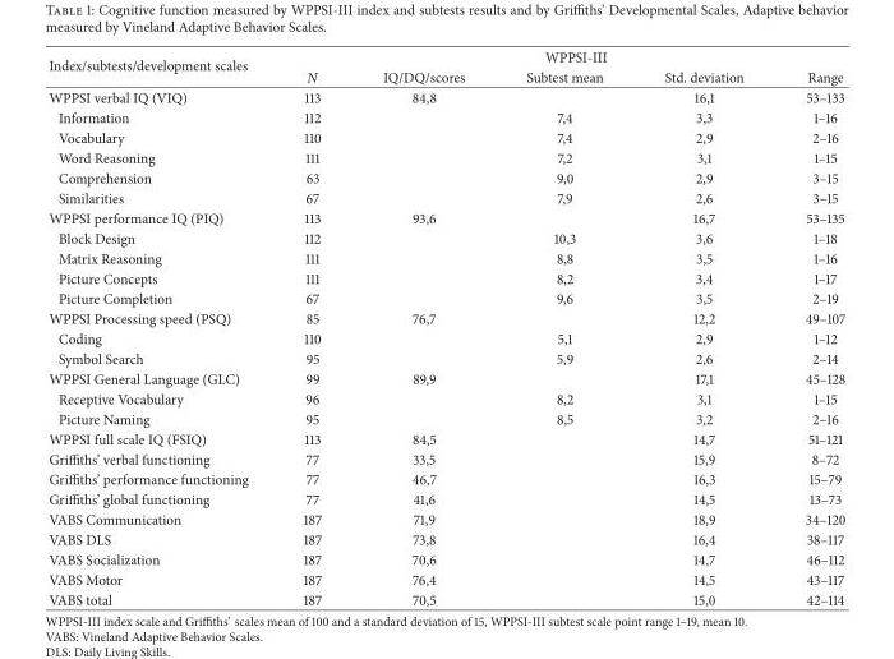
<table><thead><tr><td rowspan="2">Index/subtests/development scales</td><td colspan="5">WPPSI-III</td></tr><tr><td>N</td><td>IQ/DQ/scores</td><td>Subtest mean</td><td>Std. deviation</td><td>Range</td></tr></thead><tbody><tr><td>WPPSI verbal IQ (VIQ)</td><td>113</td><td>84,8</td><td></td><td>16,1</td><td>53–133</td></tr><tr><td>Information</td><td>112</td><td></td><td>7,4</td><td>3,3</td><td>1–16</td></tr><tr><td>Vocabulary</td><td>110</td><td></td><td>7,4</td><td>2,9</td><td>2–16</td></tr><tr><td>Word Reasoning</td><td>111</td><td></td><td>7,2</td><td>3,1</td><td>1–15</td></tr><tr><td>Comprehension</td><td>63</td><td></td><td>9,0</td><td>2,9</td><td>3–15</td></tr><tr><td>Similarities</td><td>67</td><td></td><td>7,9</td><td>2,6</td><td>3–15</td></tr><tr><td>WPPSI performance IQ (PIQ)</td><td>113</td><td>93,6</td><td></td><td>16,7</td><td>53–135</td></tr><tr><td>Block Design</td><td>112</td><td></td><td>10,3</td><td>3,6</td><td>1–18</td></tr><tr><td>Matrix Reasoning</td><td>111</td><td></td><td>8,8</td><td>3,5</td><td>1–16</td></tr><tr><td>Picture Concepts</td><td>111</td><td></td><td>8,2</td><td>3,4</td><td>1–17</td></tr><tr><td>Picture Completion</td><td>67</td><td></td><td>9,6</td><td>3,5</td><td>2–19</td></tr><tr><td>WPPSI Processing speed (PSQ)</td><td>85</td><td>76,7</td><td></td><td>12,2</td><td>49–107</td></tr><tr><td>Coding</td><td>110</td><td></td><td>5,1</td><td>2,9</td><td>1–12</td></tr><tr><td>Symbol Search</td><td>95</td><td></td><td>5,9</td><td>2,6</td><td>2–14</td></tr><tr><td>WPPSI General Language (GLC)</td><td>99</td><td>89,9</td><td></td><td>17,1</td><td>45–128</td></tr><tr><td>Receptive Vocabulary</td><td>96</td><td></td><td>8,2</td><td>3,1</td><td>1–15</td></tr><tr><td>Picture Naming</td><td>95</td><td></td><td>8,5</td><td>3,2</td><td>2–16</td></tr><tr><td>WPPSI full scale IQ (FSIQ)</td><td>113</td><td>84,5</td><td></td><td>14,7</td><td>51–121</td></tr><tr><td>Griffiths’ verbal functioning</td><td>77</td><td>33,5</td><td></td><td>15,9</td><td>8–72</td></tr><tr><td>Griffiths’ performance functioning</td><td>77</td><td>46,7</td><td></td><td>16,3</td><td>15–79</td></tr><tr><td>Griffiths’ global functioning</td><td>77</td><td>41,6</td><td></td><td>14,5</td><td>13–73</td></tr><tr><td>VABS Communication</td><td>187</td><td>71,9</td><td></td><td>18,9</td><td>34–120</td></tr><tr><td>VABS DLS</td><td>187</td><td>73,8</td><td></td><td>16,4</td><td>38–117</td></tr><tr><td>VABS Socialization</td><td>187</td><td>70,6</td><td></td><td>14,7</td><td>46–112</td></tr><tr><td>VABS Motor</td><td>187</td><td>76,4</td><td></td><td>14,5</td><td>43–117</td></tr><tr><td>VABS total</td><td>187</td><td>70,5</td><td></td><td>15,0</td><td>42–114</td></tr></tbody></table>